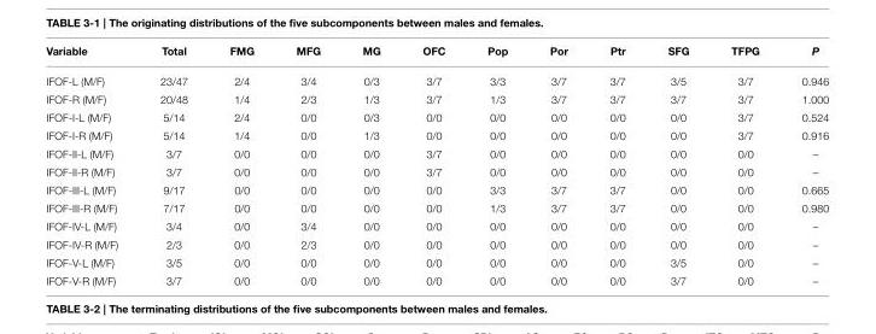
<table><thead><tr><td>Variable</td><td>Total</td><td>FMG</td><td>MFG</td><td>MG</td><td>OFC</td><td>Pop</td><td>Por</td><td>Ptr</td><td>SFG</td><td>TFPG</td><td>P</td></tr></thead><tbody><tr><td>IFOF-L (M/F)</td><td>23/47</td><td>2/4</td><td>3/4</td><td>0/3</td><td>3/7</td><td>3/3</td><td>3/7</td><td>3/7</td><td>3/5</td><td>3/7</td><td>0.946</td></tr><tr><td>IFOF-R (M/F)</td><td>20/48</td><td>1/4</td><td>2/3</td><td>1/3</td><td>3/7</td><td>1/3</td><td>3/7</td><td>3/7</td><td>3/7</td><td>3/7</td><td>1.000</td></tr><tr><td>IFOF-I-L (M/F)</td><td>5/14</td><td>2/4</td><td>0/0</td><td>0/3</td><td>0/0</td><td>0/0</td><td>0/0</td><td>0/0</td><td>0/0</td><td>3/7</td><td>0.524</td></tr><tr><td>IFOF-I-R (M/F)</td><td>5/14</td><td>1/4</td><td>0/0</td><td>1/3</td><td>0/0</td><td>0/0</td><td>0/0</td><td>0/0</td><td>0/0</td><td>3/7</td><td>0.916</td></tr><tr><td>IFOF-II-L (M/F)</td><td>3/7</td><td>0/0</td><td>0/0</td><td>0/0</td><td>3/7</td><td>0/0</td><td>0/0</td><td>0/0</td><td>0/0</td><td>0/0</td><td>–</td></tr><tr><td>IFOF-II-R (M/F)</td><td>3/7</td><td>0/0</td><td>0/0</td><td>0/0</td><td>3/7</td><td>0/0</td><td>0/0</td><td>0/0</td><td>0/0</td><td>0/0</td><td>–</td></tr><tr><td>IFOF-III-L (M/F)</td><td>9/17</td><td>0/0</td><td>0/0</td><td>0/0</td><td>0/0</td><td>3/3</td><td>3/7</td><td>3/7</td><td>0/0</td><td>0/0</td><td>0.665</td></tr><tr><td>IFOF-III-R (M/F)</td><td>7/17</td><td>0/0</td><td>0/0</td><td>0/0</td><td>0/0</td><td>1/3</td><td>3/7</td><td>3/7</td><td>0/0</td><td>0/0</td><td>0.980</td></tr><tr><td>IFOF-IV-L (M/F)</td><td>3/4</td><td>0/0</td><td>3/4</td><td>0/0</td><td>0/0</td><td>0/0</td><td>0/0</td><td>0/0</td><td>0/0</td><td>0/0</td><td>–</td></tr><tr><td>IFOF-IV-R (M/F)</td><td>2/3</td><td>0/0</td><td>2/3</td><td>0/0</td><td>0/0</td><td>0/0</td><td>0/0</td><td>0/0</td><td>0/0</td><td>0/0</td><td>–</td></tr><tr><td>IFOF-V-L (M/F)</td><td>3/5</td><td>0/0</td><td>0/0</td><td>0/0</td><td>0/0</td><td>0/0</td><td>0/0</td><td>0/0</td><td>3/5</td><td>0/0</td><td>–</td></tr><tr><td>IFOF-V-R (M/F)</td><td>3/7</td><td>0/0</td><td>0/0</td><td>0/0</td><td>0/0</td><td>0/0</td><td>0/0</td><td>0/0</td><td>3/7</td><td>0/0</td><td>–</td></tr></tbody></table>